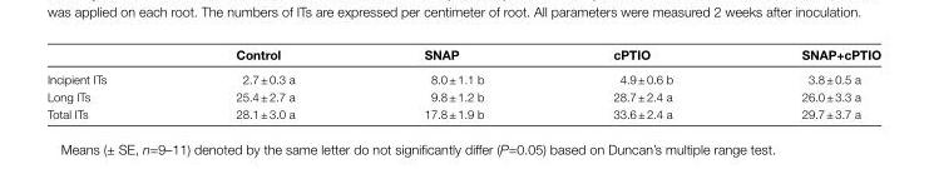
<table><thead><tr><td></td><td>Control</td><td>SNAP</td><td>cPTIO</td><td>SNAP+cPTIO</td></tr></thead><tbody><tr><td>Incipient ITs</td><td>2.7 ± 0.3 a</td><td>8.0 ± 1.1 b</td><td>4.9 ± 0.6 b</td><td>3.8 ± 0.5 a</td></tr><tr><td>Long ITs</td><td>25.4 ± 2.7 a</td><td>9.8 ± 1.2 b</td><td>28.7 ± 2.4 a</td><td>26.0 ± 3.3 a</td></tr><tr><td>Total ITs</td><td>28.1 ± 3.0 a</td><td>17.8 ± 1.9 b</td><td>33.6 ± 2.4 a</td><td>29.7 ± 3.7 a</td></tr></tbody></table>